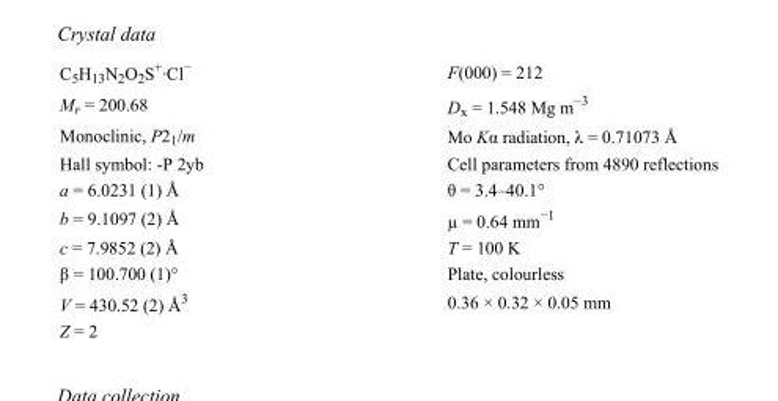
<table><tbody><tr><td>C<sub>5</sub>H<sub>13</sub>N<sub>2</sub>O<sub>2</sub>S<sup>+</sup>·Cl<sup>−</sup></td><td>F(000) = 212</td></tr><tr><td>M<sub>r</sub> = 200.68</td><td>D<sub>x</sub> = 1.548 Mg m<sup>−3</sup></td></tr><tr><td>Monoclinic, P2<sub>1</sub>/m</td><td>Mo Kα radiation, λ = 0.71073 Å</td></tr><tr><td>Hall symbol: -P 2yb</td><td>Cell parameters from 4890 reflections</td></tr><tr><td>a = 6.0231 (1) Å</td><td>θ = 3.4–40.1°</td></tr><tr><td>b = 9.1097 (2) Å</td><td>µ = 0.64 mm<sup>−1</sup></td></tr><tr><td>c = 7.9852 (2) Å</td><td>T = 100 K</td></tr><tr><td>β = 100.700 (1)°</td><td>Plate, colourless</td></tr><tr><td>V = 430.52 (2) Å<sup>3</sup></td><td>0.36 × 0.32 × 0.05 mm</td></tr><tr><td>Z = 2</td><td></td></tr></tbody></table>